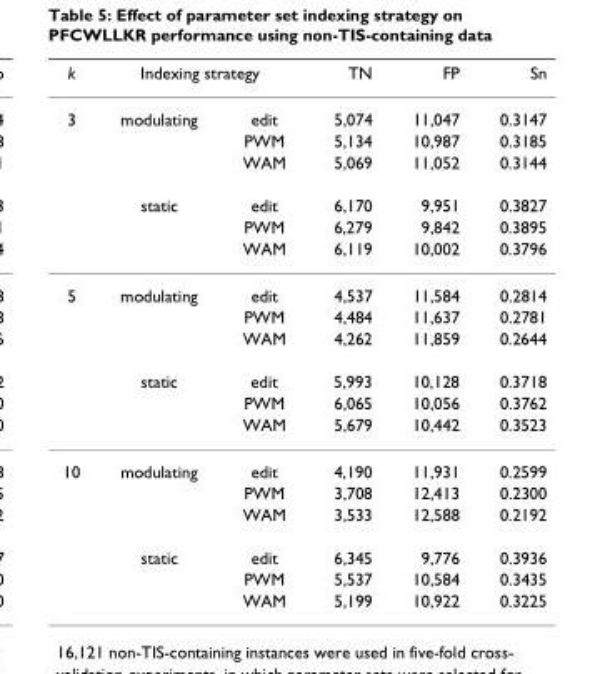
<table><thead><tr><td rowspan="2">k 3</td><td colspan="2">Indexing strategy</td><td rowspan="2">TN 5,074</td><td rowspan="2">FP 11,047</td><td rowspan="2">Sn 0.3147</td></tr><tr><td>modulating</td><td>edit</td></tr></thead><tbody><tr><td></td><td></td><td>PWM</td><td>5,134</td><td>10,987</td><td>0.3185</td></tr><tr><td></td><td></td><td>WAM</td><td>5,069</td><td>11,052</td><td>0.3144</td></tr><tr><td></td><td>static</td><td>edit</td><td>6,170</td><td>9,951</td><td>0.3827</td></tr><tr><td></td><td></td><td>PWM</td><td>6,279</td><td>9,842</td><td>0.3895</td></tr><tr><td></td><td></td><td>WAM</td><td>6,119</td><td>10,002</td><td>0.3796</td></tr><tr><td rowspan="6">5</td><td>modulating</td><td>edit</td><td>4,537</td><td>11,584</td><td>0.2814</td></tr><tr><td></td><td>PWM</td><td>4,484</td><td>11,637</td><td>0.2781</td></tr><tr><td></td><td>WAM</td><td>4,262</td><td>11,859</td><td>0.2644</td></tr><tr><td>static</td><td>edit</td><td>5,993</td><td>10,128</td><td>0.3718</td></tr><tr><td></td><td>PWM</td><td>6,065</td><td>10,056</td><td>0.3762</td></tr><tr><td></td><td>WAM</td><td>5,679</td><td>10,442</td><td>0.3523</td></tr><tr><td rowspan="6">10</td><td>modulating</td><td>edit</td><td>4,190</td><td>11,931</td><td>0.2599</td></tr><tr><td></td><td>PWM</td><td>3,708</td><td>12,413</td><td>0.2300</td></tr><tr><td></td><td>WAM</td><td>3,533</td><td>12,588</td><td>0.2192</td></tr><tr><td>static</td><td>edit</td><td>6,345</td><td>9,776</td><td>0.3936</td></tr><tr><td></td><td>PWM</td><td>5,537</td><td>10,584</td><td>0.3435</td></tr><tr><td></td><td>WAM</td><td>5,199</td><td>10,922</td><td>0.3225</td></tr></tbody></table>